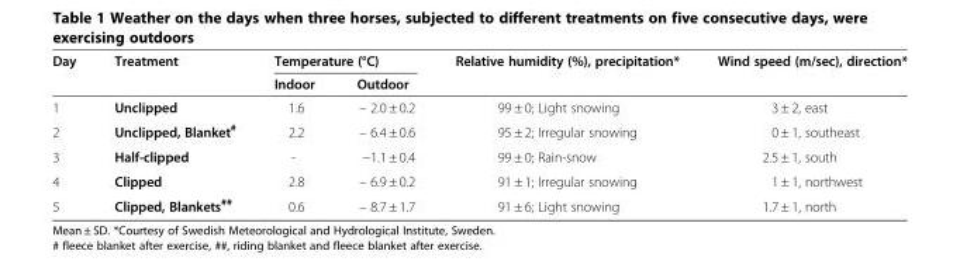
<table><thead><tr><td rowspan="2">Day</td><td rowspan="2">Treatment</td><td colspan="2">Temperature (°C)</td><td rowspan="2">Relative humidity (%), precipitation*</td><td rowspan="2">Wind speed (m/sec), direction*</td></tr><tr><td>Indoor</td><td>Outdoor</td></tr></thead><tbody><tr><td>1</td><td>Unclipped</td><td>1.6</td><td>– 2.0 ± 0.2</td><td>99 ± 0; Light snowing</td><td>3 ± 2, east</td></tr><tr><td>2</td><td>Unclipped, Blanket<sup>#</sup></td><td>2.2</td><td>– 6.4 ± 0.6</td><td>95 ± 2; Irregular snowing</td><td>0 ± 1, southeast</td></tr><tr><td>3</td><td>Half-clipped</td><td>-</td><td>−1.1 ± 0.4</td><td>99 ± 0; Rain-snow</td><td>2.5 ± 1, south</td></tr><tr><td>4</td><td>Clipped</td><td>2.8</td><td>– 6.9 ± 0.2</td><td>91 ± 1; Irregular snowing</td><td>1 ± 1, northwest</td></tr><tr><td>5</td><td>Clipped, Blankets<sup>##</sup></td><td>0.6</td><td>– 8.7 ± 1.7</td><td>91 ± 6; Light snowing</td><td>1.7 ± 1, north</td></tr></tbody></table>